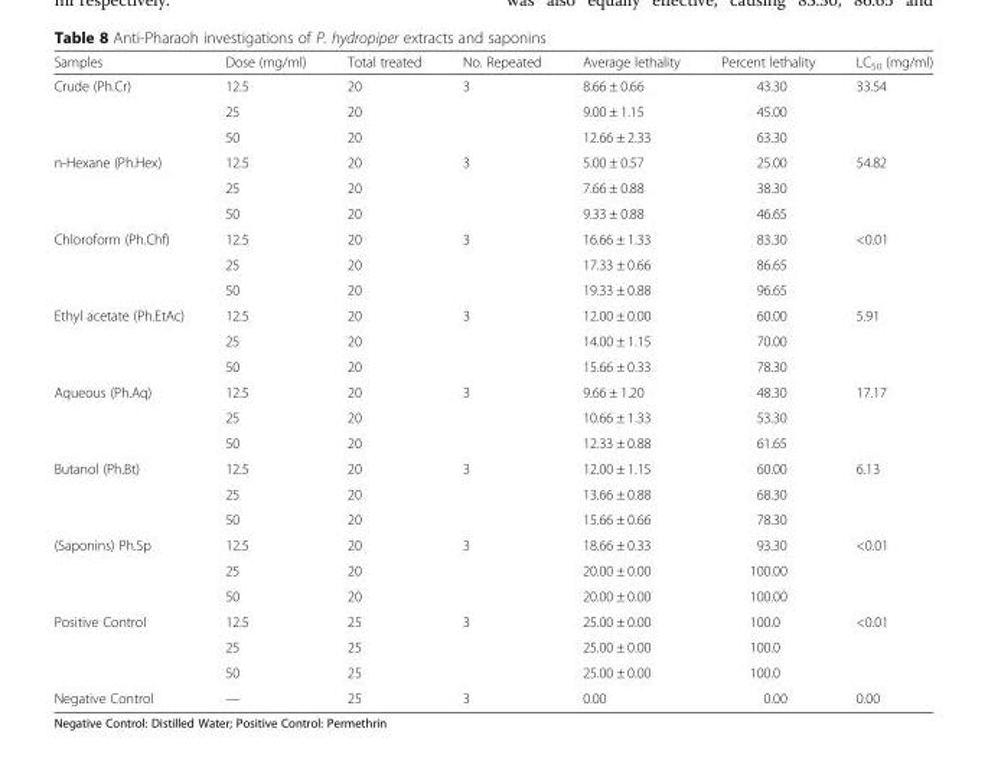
<table><thead><tr><td>Samples</td><td>Dose (mg/ml)</td><td>Total treated</td><td>No. Repeated</td><td>Average lethality</td><td>Percent lethality</td><td>LC<sub>50</sub> (mg/ml)</td></tr></thead><tbody><tr><td rowspan="3">Crude (Ph.Cr)</td><td>12.5</td><td>20</td><td rowspan="3">3</td><td>8.66 ± 0.66</td><td>43.30</td><td rowspan="3">33.54</td></tr><tr><td>25</td><td>20</td><td>9.00 ± 1.15</td><td>45.00</td></tr><tr><td>50</td><td>20</td><td>12.66 ± 2.33</td><td>63.30</td></tr><tr><td rowspan="3">n-Hexane (Ph.Hex)</td><td>12.5</td><td>20</td><td rowspan="3">3</td><td>5.00 ± 0.57</td><td>25.00</td><td rowspan="3">54.82</td></tr><tr><td>25</td><td>20</td><td>7.66 ± 0.88</td><td>38.30</td></tr><tr><td>50</td><td>20</td><td>9.33 ± 0.88</td><td>46.65</td></tr><tr><td rowspan="3">Chloroform (Ph.Chf)</td><td>12.5</td><td>20</td><td rowspan="3">3</td><td>16.66 ± 1.33</td><td>83.30</td><td rowspan="3">&lt;0.01</td></tr><tr><td>25</td><td>20</td><td>17.33 ± 0.66</td><td>86.65</td></tr><tr><td>50</td><td>20</td><td>19.33 ± 0.88</td><td>96.65</td></tr><tr><td rowspan="3">Ethyl acetate (Ph.EtAc)</td><td>12.5</td><td>20</td><td rowspan="3">3</td><td>12.00 ± 0.00</td><td>60.00</td><td rowspan="3">5.91</td></tr><tr><td>25</td><td>20</td><td>14.00 ± 1.15</td><td>70.00</td></tr><tr><td>50</td><td>20</td><td>15.66 ± 0.33</td><td>78.30</td></tr><tr><td rowspan="3">Aqueous (Ph.Aq)</td><td>12.5</td><td>20</td><td rowspan="3">3</td><td>9.66 ± 1.20</td><td>48.30</td><td rowspan="3">17.17</td></tr><tr><td>25</td><td>20</td><td>10.66 ± 1.33</td><td>53.30</td></tr><tr><td>50</td><td>20</td><td>12.33 ± 0.88</td><td>61.65</td></tr><tr><td rowspan="3">Butanol (Ph.Bt)</td><td>12.5</td><td>20</td><td rowspan="3">3</td><td>12.00 ± 1.15</td><td>60.00</td><td rowspan="3">6.13</td></tr><tr><td>25</td><td>20</td><td>13.66 ± 0.88</td><td>68.30</td></tr><tr><td>50</td><td>20</td><td>15.66 ± 0.66</td><td>78.30</td></tr><tr><td rowspan="3">(Saponins) Ph.Sp</td><td>12.5</td><td>20</td><td rowspan="3">3</td><td>18.66 ± 0.33</td><td>93.30</td><td rowspan="3">&lt;0.01</td></tr><tr><td>25</td><td>20</td><td>20.00 ± 0.00</td><td>100.00</td></tr><tr><td>50</td><td>20</td><td>20.00 ± 0.00</td><td>100.00</td></tr><tr><td rowspan="3">Positive Control</td><td>12.5</td><td>25</td><td rowspan="3">3</td><td>25.00 ± 0.00</td><td>100.0</td><td rowspan="3">&lt;0.01</td></tr><tr><td>25</td><td>25</td><td>25.00 ± 0.00</td><td>100.0</td></tr><tr><td>50</td><td>25</td><td>25.00 ± 0.00</td><td>100.0</td></tr><tr><td>Negative Control</td><td>—</td><td>25</td><td>3</td><td>0.00</td><td>0.00</td><td>0.00</td></tr></tbody></table>